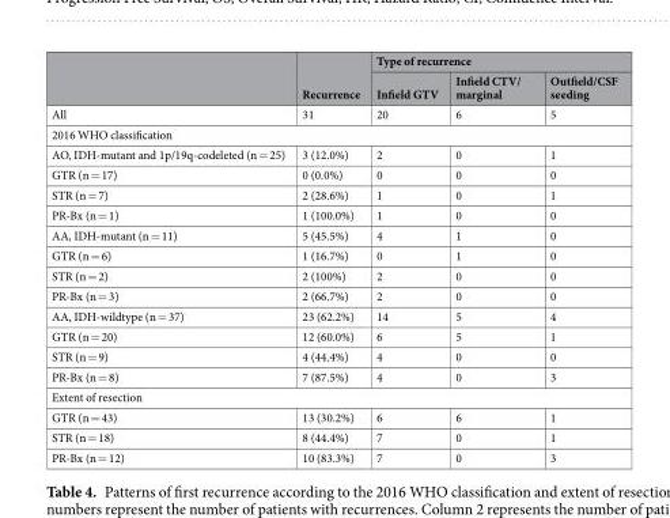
<table><thead><tr><td rowspan="2"></td><td rowspan="2">Recurrence</td><td colspan="3">Type of recurrence</td></tr><tr><td>Infield GTV</td><td>Infield CTV/ marginal</td><td>Outfield/CSF seeding</td></tr></thead><tbody><tr><td>All</td><td>31</td><td>20</td><td>6</td><td>5</td></tr><tr><td colspan="5">2016 WHO classification</td></tr><tr><td>AO, IDH-mutant and 1p/19q-codeleted (n = 25)</td><td>3 (12.0%)</td><td>2</td><td>0</td><td>1</td></tr><tr><td>GTR (n = 17)</td><td>0 (0.0%)</td><td>0</td><td>0</td><td>0</td></tr><tr><td>STR (n = 7)</td><td>2 (28.6%)</td><td>1</td><td>0</td><td>1</td></tr><tr><td>PR-Bx (n = 1)</td><td>1 (100.0%)</td><td>1</td><td>0</td><td>0</td></tr><tr><td>AA, IDH-mutant (n = 11)</td><td>5 (45.5%)</td><td>4</td><td>1</td><td>0</td></tr><tr><td>GTR (n = 6)</td><td>1 (16.7%)</td><td>0</td><td>1</td><td>0</td></tr><tr><td>STR (n = 2)</td><td>2 (100%)</td><td>2</td><td>0</td><td>0</td></tr><tr><td>PR-Bx (n = 3)</td><td>2 (66.7%)</td><td>2</td><td>0</td><td>0</td></tr><tr><td>AA, IDH-wildtype (n = 37)</td><td>23 (62.2%)</td><td>14</td><td>5</td><td>4</td></tr><tr><td>GTR (n = 20)</td><td>12 (60.0%)</td><td>6</td><td>5</td><td>1</td></tr><tr><td>STR (n = 9)</td><td>4 (44.4%)</td><td>4</td><td>0</td><td>0</td></tr><tr><td>PR-Bx (n = 8)</td><td>7 (87.5%)</td><td>4</td><td>0</td><td>3</td></tr><tr><td colspan="5">Extent of resection</td></tr><tr><td>GTR (n = 43)</td><td>13 (30.2%)</td><td>6</td><td>6</td><td>1</td></tr><tr><td>STR (n = 18)</td><td>8 (44.4%)</td><td>7</td><td>0</td><td>1</td></tr><tr><td>PR-Bx (n = 12)</td><td>10 (83.3%)</td><td>7</td><td>0</td><td>3</td></tr></tbody></table>